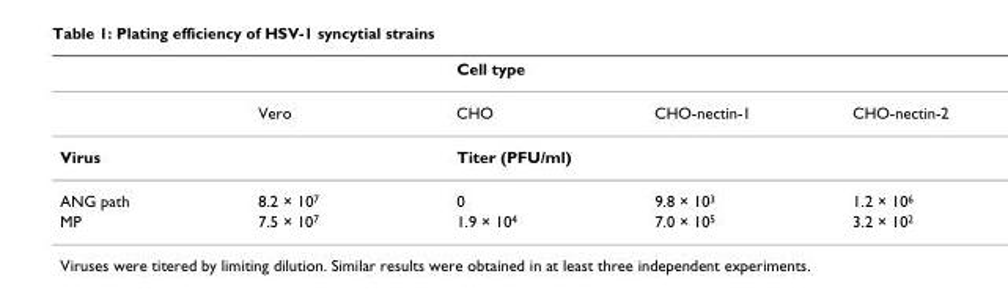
<table><thead><tr><td></td><td></td><td>Cell type</td><td></td><td></td></tr></thead><tbody><tr><td></td><td>Vero</td><td>CHO</td><td>CHO-nectin-1</td><td>CHO-nectin-2</td></tr><tr><td>Virus</td><td></td><td>Titer (PFU/ml)</td><td></td><td></td></tr><tr><td>ANG path</td><td>8.2 × 10<sup>7</sup></td><td>0</td><td>9.8 × 10<sup>3</sup></td><td>1.2 × 10<sup>6</sup></td></tr><tr><td>MP</td><td>7.5 × 10<sup>7</sup></td><td>1.9 × 10<sup>4</sup></td><td>7.0 × 10<sup>5</sup></td><td>3.2 × 10<sup>2</sup></td></tr></tbody></table>